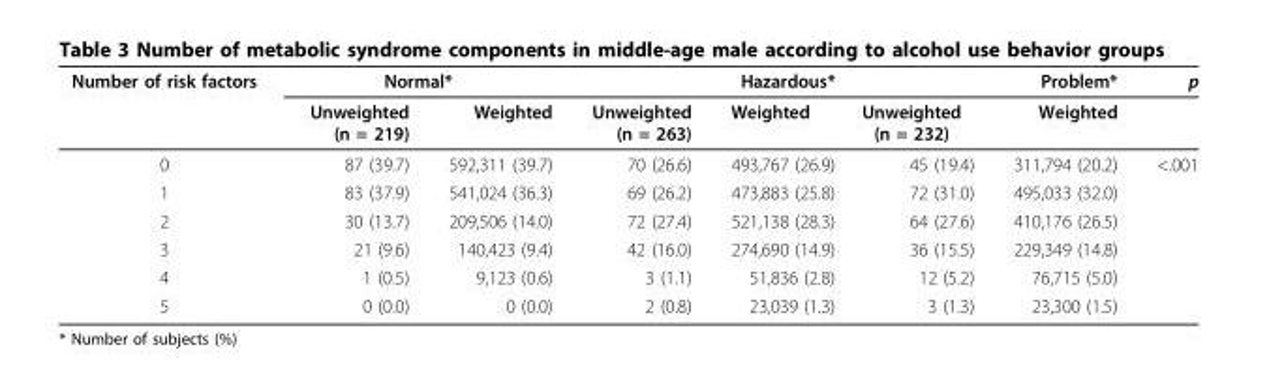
<table><thead><tr><td rowspan="2">Number of risk factors</td><td colspan="2">Normal*</td><td colspan="2">Hazardous*</td><td colspan="2">Problem*</td><td rowspan="2">p</td></tr><tr><td>Unweighted (n = 219)</td><td>Weighted</td><td>Unweighted (n = 263)</td><td>Weighted</td><td>Unweighted (n = 232)</td><td>Weighted</td></tr></thead><tbody><tr><td>0</td><td>87 (39.7)</td><td>592,311 (39.7)</td><td>70 (26.6)</td><td>493,767 (26.9)</td><td>45 (19.4)</td><td>311,794 (20.2)</td><td>&lt;.001</td></tr><tr><td>1</td><td>83 (37.9)</td><td>541,024 (36.3)</td><td>69 (26.2)</td><td>473,883 (25.8)</td><td>72 (31.0)</td><td>495,033 (32.0)</td><td></td></tr><tr><td>2</td><td>30 (13.7)</td><td>209,506 (14.0)</td><td>72 (27.4)</td><td>521,138 (28.3)</td><td>64 (27.6)</td><td>410,176 (26.5)</td><td></td></tr><tr><td>3</td><td>21 (9.6)</td><td>140,423 (9.4)</td><td>42 (16.0)</td><td>274,690 (14.9)</td><td>36 (15.5)</td><td>229,349 (14.8)</td><td></td></tr><tr><td>4</td><td>1 (0.5)</td><td>9,123 (0.6)</td><td>3 (1.1)</td><td>51,836 (2.8)</td><td>12 (5.2)</td><td>76,715 (5.0)</td><td></td></tr><tr><td>5</td><td>0 (0.0)</td><td>0 (0.0)</td><td>2 (0.8)</td><td>23,039 (1.3)</td><td>3 (1.3)</td><td>23,300 (1.5)</td><td></td></tr></tbody></table>